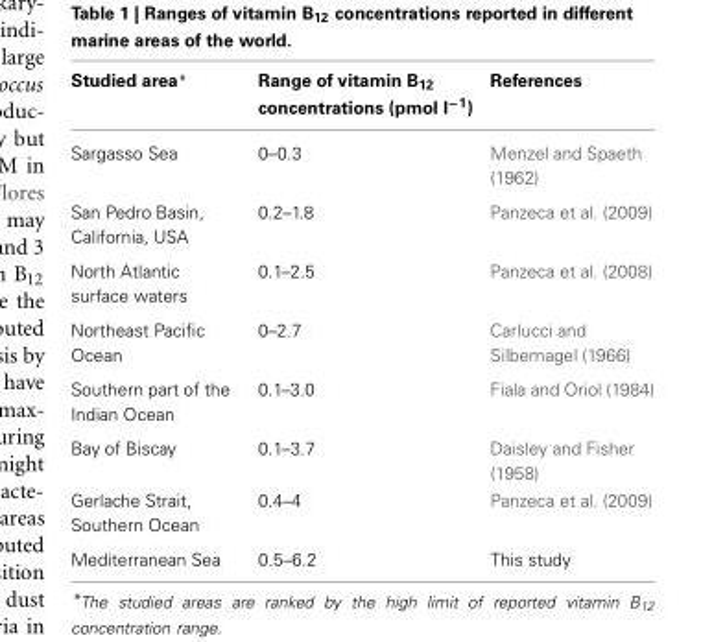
<table><thead><tr><td>Studied area*</td><td>Range of vitamin B<sub>12</sub> concentrations (pmol l<sup>−1</sup>)</td><td>References</td></tr></thead><tbody><tr><td>Sargasso Sea</td><td>0–0.3</td><td>Menzel and Spaeth (1962)</td></tr><tr><td>San Pedro Basin, California, USA</td><td>0.2–1.8</td><td>Panzeca et al. (2009)</td></tr><tr><td>North Atlantic surface waters</td><td>0.1–2.5</td><td>Panzeca et al. (2008)</td></tr><tr><td>Northeast Pacific Ocean</td><td>0–2.7</td><td>Carlucci and Silbemagel (1966)</td></tr><tr><td>Southern part of the Indian Ocean</td><td>0.1–3.0</td><td>Fiala and Oriol (1984)</td></tr><tr><td>Bay of Biscay</td><td>0.1–3.7</td><td>Daisley and Fisher (1958)</td></tr><tr><td>Gerlache Strait, Southern Ocean</td><td>0.4–4</td><td>Panzeca et al. (2009)</td></tr><tr><td>Mediterranean Sea</td><td>0.5–6.2</td><td>This study</td></tr></tbody></table>